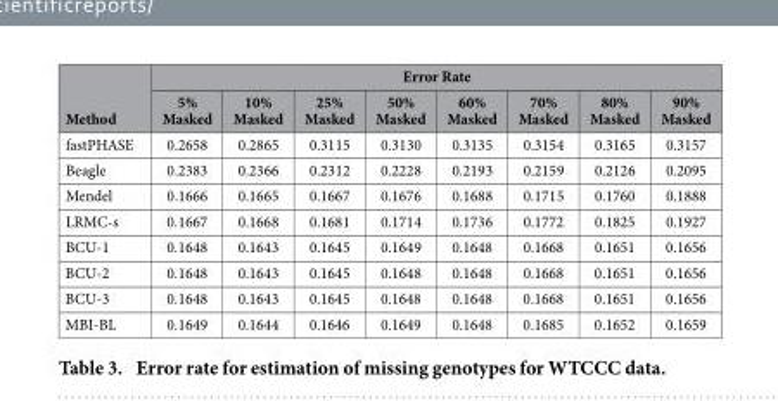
<table><thead><tr><td rowspan="2">Method</td><td colspan="8">Error Rate</td></tr><tr><td>5% Masked</td><td>10% Masked</td><td>25% Masked</td><td>50% Masked</td><td>60% Masked</td><td>70% Masked</td><td>80% Masked</td><td>90% Masked</td></tr></thead><tbody><tr><td>fastPHASE</td><td>0.2658</td><td>0.2865</td><td>0.3115</td><td>0.3130</td><td>0.3135</td><td>0.3154</td><td>0.3165</td><td>0.3157</td></tr><tr><td>Beagle</td><td>0.2383</td><td>0.2366</td><td>0.2312</td><td>0.2228</td><td>0.2193</td><td>0.2159</td><td>0.2126</td><td>0.2095</td></tr><tr><td>Mendel</td><td>0.1666</td><td>0.1665</td><td>0.1667</td><td>0.1676</td><td>0.1688</td><td>0.1715</td><td>0.1760</td><td>0.1888</td></tr><tr><td>LRMC-s</td><td>0.1667</td><td>0.1668</td><td>0.1681</td><td>0.1714</td><td>0.1736</td><td>0.1772</td><td>0.1825</td><td>0.1927</td></tr><tr><td>BCU-1</td><td>0.1648</td><td>0.1643</td><td>0.1645</td><td>0.1649</td><td>0.1648</td><td>0.1668</td><td>0.1651</td><td>0.1656</td></tr><tr><td>BCU-2</td><td>0.1648</td><td>0.1643</td><td>0.1645</td><td>0.1648</td><td>0.1648</td><td>0.1668</td><td>0.1651</td><td>0.1656</td></tr><tr><td>BCU-3</td><td>0.1648</td><td>0.1643</td><td>0.1645</td><td>0.1648</td><td>0.1648</td><td>0.1668</td><td>0.1651</td><td>0.1656</td></tr><tr><td>MBI-BL</td><td>0.1649</td><td>0.1644</td><td>0.1646</td><td>0.1649</td><td>0.1648</td><td>0.1685</td><td>0.1652</td><td>0.1659</td></tr></tbody></table>